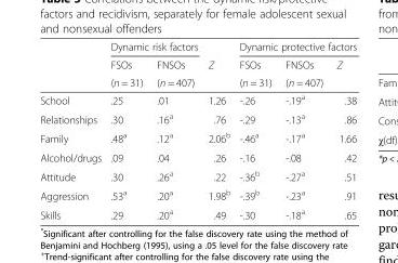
<table><thead><tr><td rowspan="3"></td><td colspan="2">Dynamic risk factors</td><td rowspan="3">Z</td><td colspan="3">Dynamic protective factors</td></tr><tr><td rowspan="2">FSOs (n = 31)</td><td rowspan="2">FNSOs (n = 407)</td><td rowspan="2">FSOs (n = 31)</td><td rowspan="2">FNSOs (n = 407)</td><td rowspan="2">Z</td></tr><tr></tr></thead><tbody><tr><td>School</td><td>.25</td><td>.01</td><td>1.26</td><td>-.26</td><td>-.19<sup>a</sup></td><td>.38</td></tr><tr><td>Relationships</td><td>.30</td><td>.16<sup>a</sup></td><td>.76</td><td>-.29</td><td>-.13<sup>a</sup></td><td>.86</td></tr><tr><td>Family</td><td>.48<sup>a</sup></td><td>.12<sup>a</sup></td><td>2.06<sup>b</sup></td><td>-.46<sup>a</sup></td><td>-.17<sup>a</sup></td><td>1.66</td></tr><tr><td>Alcohol/drugs</td><td>.09</td><td>.04</td><td>.26</td><td>-.16</td><td>-.08</td><td>.42</td></tr><tr><td>Attitude</td><td>.30</td><td>.26<sup>a</sup></td><td>.22</td><td>-.36<sup>b</sup></td><td>-.27<sup>a</sup></td><td>.51</td></tr><tr><td>Aggression</td><td>.53<sup>a</sup></td><td>.20<sup>a</sup></td><td>1.98<sup>b</sup></td><td>-.39<sup>b</sup></td><td>-.23<sup>a</sup></td><td>.91</td></tr><tr><td>Skills</td><td>.29</td><td>.20<sup>a</sup></td><td>.49</td><td>-.30</td><td>-.18<sup>a</sup></td><td>.65</td></tr></tbody></table>